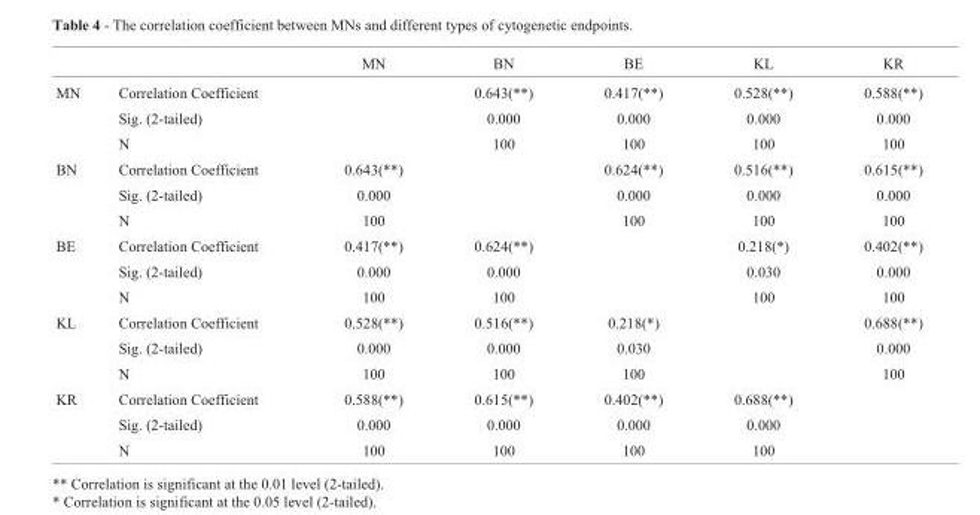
<table><thead><tr><td></td><td></td><td>MN</td><td>BN</td><td>BE</td><td>KL</td><td>KR</td></tr></thead><tbody><tr><td rowspan="3">MN</td><td>Correlation Coefficient</td><td></td><td>0.643(**)</td><td>0.417(**)</td><td>0.528(**)</td><td>0.588(**)</td></tr><tr><td>Sig. (2-tailed)</td><td></td><td>0.000</td><td>0.000</td><td>0.000</td><td>0.000</td></tr><tr><td>N</td><td></td><td>100</td><td>100</td><td>100</td><td>100</td></tr><tr><td rowspan="3">BN</td><td>Correlation Coefficient</td><td>0.643(**)</td><td></td><td>0.624(**)</td><td>0.516(**)</td><td>0.615(**)</td></tr><tr><td>Sig. (2-tailed)</td><td>0.000</td><td></td><td>0.000</td><td>0.000</td><td>0.000</td></tr><tr><td>N</td><td>100</td><td></td><td>100</td><td>100</td><td>100</td></tr><tr><td rowspan="3">BE</td><td>Correlation Coefficient</td><td>0.417(**)</td><td>0.624(**)</td><td></td><td>0.218(*)</td><td>0.402(**)</td></tr><tr><td>Sig. (2-tailed)</td><td>0.000</td><td>0.000</td><td></td><td>0.030</td><td>0.000</td></tr><tr><td>N</td><td>100</td><td>100</td><td></td><td>100</td><td>100</td></tr><tr><td rowspan="3">KL</td><td>Correlation Coefficient</td><td>0.528(**)</td><td>0.516(**)</td><td>0.218(*)</td><td></td><td>0.688(**)</td></tr><tr><td>Sig. (2-tailed)</td><td>0.000</td><td>0.000</td><td>0.030</td><td></td><td>0.000</td></tr><tr><td>N</td><td>100</td><td>100</td><td>100</td><td></td><td>100</td></tr><tr><td rowspan="3">KR</td><td>Correlation Coefficient</td><td>0.588(**)</td><td>0.615(**)</td><td>0.402(**)</td><td>0.688(**)</td><td></td></tr><tr><td>Sig. (2-tailed)</td><td>0.000</td><td>0.000</td><td>0.000</td><td>0.000</td><td></td></tr><tr><td>N</td><td>100</td><td>100</td><td>100</td><td>100</td><td></td></tr></tbody></table>